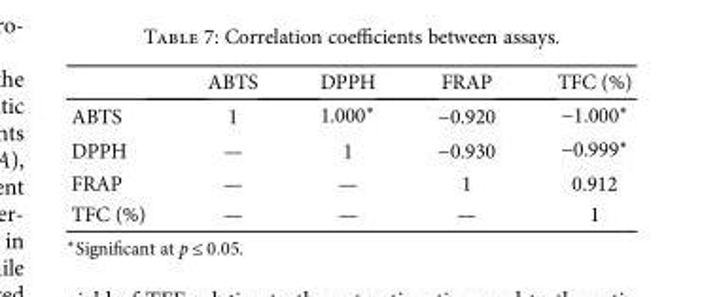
<table><thead><tr><td></td><td>ABTS</td><td>DPPH</td><td>FRAP</td><td>TFC (%)</td></tr></thead><tbody><tr><td>ABTS</td><td>1</td><td>1.000∗</td><td>−0.920</td><td>−1.000∗</td></tr><tr><td>DPPH</td><td>—</td><td>1</td><td>−0.930</td><td>−0.999∗</td></tr><tr><td>FRAP</td><td>—</td><td>—</td><td>1</td><td>0.912</td></tr><tr><td>TFC (%)</td><td>—</td><td>—</td><td>—</td><td>1</td></tr></tbody></table>